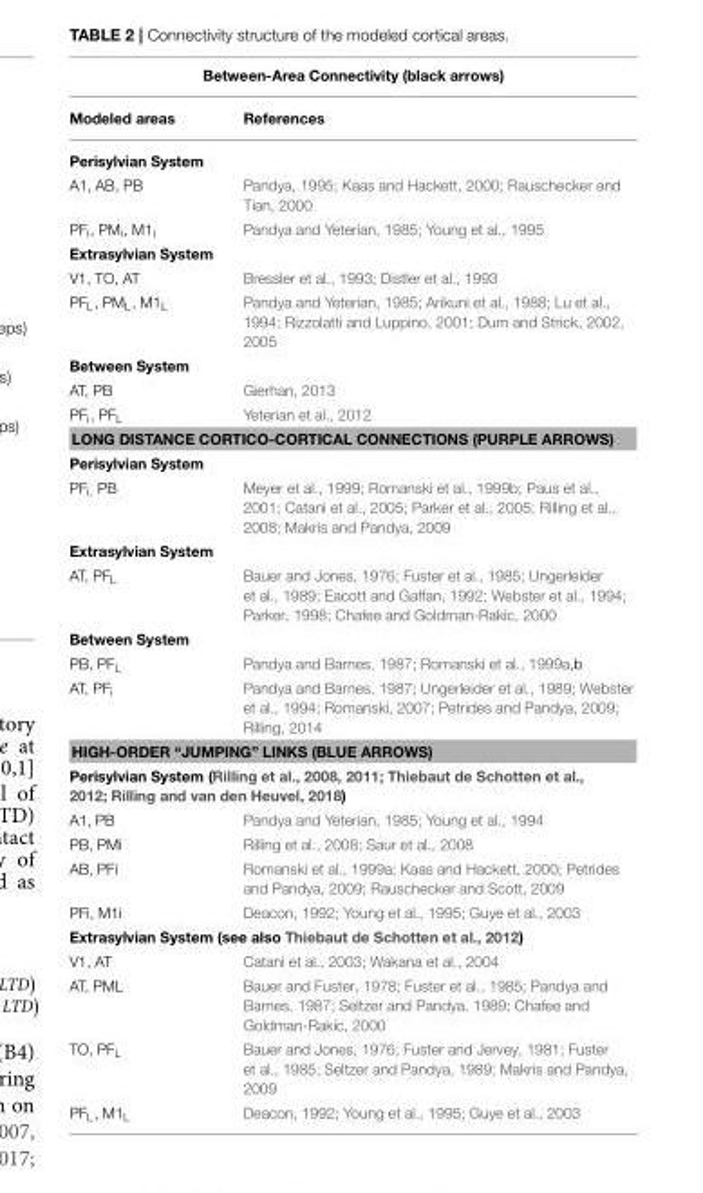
<table><thead><tr><td colspan="2">Between-Area Connectivity (black arrows)</td></tr><tr><td>Modeled areas</td><td>References</td></tr></thead><tbody><tr><td colspan="2">Perisylvian System</td></tr><tr><td>A1, AB, PB</td><td>Pandya, 1995; Kaas and Hackett, 2000; Rauschecker and Tian, 2000</td></tr><tr><td>PF<sub>i</sub>, PM<sub>i</sub>, M1<sub>i</sub></td><td>Pandya and Yeterian, 1985; Young et al., 1995</td></tr><tr><td colspan="2">Extrasylvian System</td></tr><tr><td>V1, TO, AT</td><td>Bressler et al., 1993; Distler et al., 1993</td></tr><tr><td>PF<sub>L</sub>, PM<sub>L</sub>, M1<sub>L</sub></td><td>Pandya and Yeterian, 1985; Arikuni et al., 1988; Lu et al., 1994; Rizzolatti and Luppino, 2001; Dum and Strick, 2002, 2005</td></tr><tr><td colspan="2">Between System</td></tr><tr><td>AT, PB</td><td>Gierhan, 2013</td></tr><tr><td>PF<sub>i</sub>, PF<sub>L</sub></td><td>Yeterian et al., 2012</td></tr><tr><td colspan="2">LONG DISTANCE CORTICO-CORTICAL CONNECTIONS (PURPLE ARROWS)</td></tr><tr><td colspan="2">Perisylvian System</td></tr><tr><td>PF<sub>i</sub>, PB</td><td>Meyer et al., 1999; Romanski et al., 1999b; Paus et al., 2001; Catani et al., 2005; Parker et al., 2005; Rilling et al., 2008; Makris and Pandya, 2009</td></tr><tr><td colspan="2">Extrasylvian System</td></tr><tr><td>AT, PF<sub>L</sub></td><td>Bauer and Jones, 1976; Fuster et al., 1985; Ungerleider et al., 1989; Eacott and Gaffan, 1992; Webster et al., 1994; Parker, 1998; Chafee and Goldman-Rakic, 2000</td></tr><tr><td colspan="2">Between System</td></tr><tr><td>PB, PF<sub>L</sub></td><td>Pandya and Barnes, 1987; Romanski et al., 1999a,b</td></tr><tr><td>AT, PF<sub>i</sub></td><td>Pandya and Barnes, 1987; Ungerleider et al., 1989; Webster et al., 1994; Romanski, 2007; Petrides and Pandya, 2009; Rilling, 2014</td></tr><tr><td colspan="2">HIGH-ORDER “JUMPING” LINKS (BLUE ARROWS)</td></tr><tr><td colspan="2">Perisylvian System (Rilling et al., 2008, 2011; Thiebaut de Schotten et al., 2012; Rilling and van den Heuvel, 2018)</td></tr><tr><td>A1, PB</td><td>Pandya and Yeterian, 1985; Young et al., 1994</td></tr><tr><td>PB, PMi</td><td>Rilling et al., 2008; Saur et al., 2008</td></tr><tr><td>AB, PFi</td><td>Romanski et al., 1999a; Kaas and Hackett, 2000; Petrides and Pandya, 2009; Rauschecker and Scott, 2009</td></tr><tr><td>PFi, M1i</td><td>Deacon, 1992; Young et al., 1995; Guye et al., 2003</td></tr><tr><td colspan="2">Extrasylvian System (see also Thiebaut de Schotten et al., 2012)</td></tr><tr><td>V1, AT</td><td>Catani et al., 2003; Wakana et al., 2004</td></tr><tr><td>AT, PML</td><td>Bauer and Fuster, 1978; Fuster et al., 1985; Pandya and Barnes, 1987; Seltzer and Pandya, 1989; Chafee and Goldman-Rakic, 2000</td></tr><tr><td>TO, PF<sub>L</sub></td><td>Bauer and Jones, 1976; Fuster and Jervey, 1981; Fuster et al., 1985; Seltzer and Pandya, 1989; Makris and Pandya, 2009</td></tr><tr><td>PF<sub>L</sub>, M1<sub>L</sub></td><td>Deacon, 1992; Young et al., 1995; Guye et al., 2003</td></tr></tbody></table>